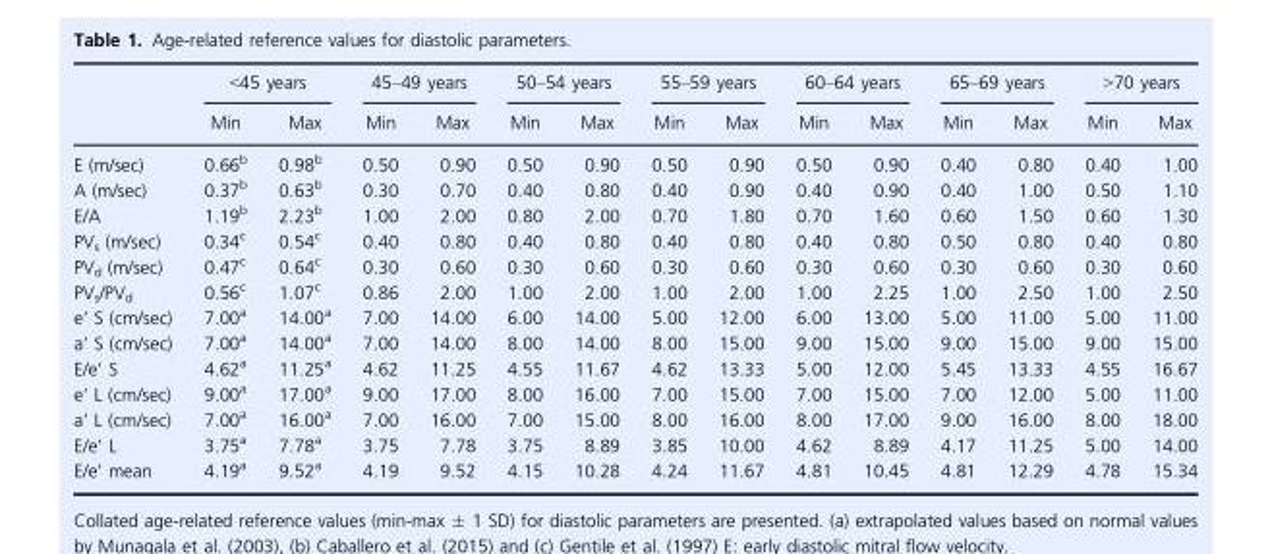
<table><thead><tr><td rowspan="2"></td><td colspan="2">&lt;45 years</td><td colspan="2">45–49 years</td><td colspan="2">50–54 years</td><td colspan="2">55–59 years</td><td colspan="2">60–64 years</td><td colspan="2">65–69 years</td><td colspan="2">&gt;70 years</td></tr><tr><td>Min</td><td>Max</td><td>Min</td><td>Max</td><td>Min</td><td>Max</td><td>Min</td><td>Max</td><td>Min</td><td>Max</td><td>Min</td><td>Max</td><td>Min</td><td>Max</td></tr></thead><tbody><tr><td>E (m/sec)</td><td>0.66<sup>b</sup></td><td>0.98<sup>b</sup></td><td>0.50</td><td>0.90</td><td>0.50</td><td>0.90</td><td>0.50</td><td>0.90</td><td>0.50</td><td>0.90</td><td>0.40</td><td>0.80</td><td>0.40</td><td>1.00</td></tr><tr><td>A (m/sec)</td><td>0.37<sup>b</sup></td><td>0.63<sup>b</sup></td><td>0.30</td><td>0.70</td><td>0.40</td><td>0.80</td><td>0.40</td><td>0.90</td><td>0.40</td><td>0.90</td><td>0.40</td><td>1.00</td><td>0.50</td><td>1.10</td></tr><tr><td>E/A</td><td>1.19<sup>b</sup></td><td>2.23<sup>b</sup></td><td>1.00</td><td>2.00</td><td>0.80</td><td>2.00</td><td>0.70</td><td>1.80</td><td>0.70</td><td>1.60</td><td>0.60</td><td>1.50</td><td>0.60</td><td>1.30</td></tr><tr><td>PV<sub>s</sub> (m/sec)</td><td>0.34<sup>c</sup></td><td>0.54<sup>c</sup></td><td>0.40</td><td>0.80</td><td>0.40</td><td>0.80</td><td>0.40</td><td>0.80</td><td>0.40</td><td>0.80</td><td>0.50</td><td>0.80</td><td>0.40</td><td>0.80</td></tr><tr><td>PV<sub>d</sub> (m/sec)</td><td>0.47<sup>c</sup></td><td>0.64<sup>c</sup></td><td>0.30</td><td>0.60</td><td>0.30</td><td>0.60</td><td>0.30</td><td>0.60</td><td>0.30</td><td>0.60</td><td>0.30</td><td>0.60</td><td>0.30</td><td>0.60</td></tr><tr><td>PV<sub>s</sub>/PV<sub>d</sub></td><td>0.56<sup>c</sup></td><td>1.07<sup>c</sup></td><td>0.86</td><td>2.00</td><td>1.00</td><td>2.00</td><td>1.00</td><td>2.00</td><td>1.00</td><td>2.25</td><td>1.00</td><td>2.50</td><td>1.00</td><td>2.50</td></tr><tr><td>e’ S (cm/sec)</td><td>7.00<sup>a</sup></td><td>14.00<sup>a</sup></td><td>7.00</td><td>14.00</td><td>6.00</td><td>14.00</td><td>5.00</td><td>12.00</td><td>6.00</td><td>13.00</td><td>5.00</td><td>11.00</td><td>5.00</td><td>11.00</td></tr><tr><td>a’ S (cm/sec)</td><td>7.00<sup>a</sup></td><td>14.00<sup>a</sup></td><td>7.00</td><td>14.00</td><td>8.00</td><td>14.00</td><td>8.00</td><td>15.00</td><td>9.00</td><td>15.00</td><td>9.00</td><td>15.00</td><td>9.00</td><td>15.00</td></tr><tr><td>E/e’ S</td><td>4.62<sup>a</sup></td><td>11.25<sup>a</sup></td><td>4.62</td><td>11.25</td><td>4.55</td><td>11.67</td><td>4.62</td><td>13.33</td><td>5.00</td><td>12.00</td><td>5.45</td><td>13.33</td><td>4.55</td><td>16.67</td></tr><tr><td>e’ L (cm/sec)</td><td>9.00<sup>a</sup></td><td>17.00<sup>a</sup></td><td>9.00</td><td>17.00</td><td>8.00</td><td>16.00</td><td>7.00</td><td>15.00</td><td>7.00</td><td>15.00</td><td>7.00</td><td>12.00</td><td>5.00</td><td>11.00</td></tr><tr><td>a’ L (cm/sec)</td><td>7.00<sup>a</sup></td><td>16.00<sup>a</sup></td><td>7.00</td><td>16.00</td><td>7.00</td><td>15.00</td><td>8.00</td><td>16.00</td><td>8.00</td><td>17.00</td><td>9.00</td><td>16.00</td><td>8.00</td><td>18.00</td></tr><tr><td>E/e’ L</td><td>3.75<sup>a</sup></td><td>7.78<sup>a</sup></td><td>3.75</td><td>7.78</td><td>3.75</td><td>8.89</td><td>3.85</td><td>10.00</td><td>4.62</td><td>8.89</td><td>4.17</td><td>11.25</td><td>5.00</td><td>14.00</td></tr><tr><td>E/e’ mean</td><td>4.19<sup>a</sup></td><td>9.52<sup>a</sup></td><td>4.19</td><td>9.52</td><td>4.15</td><td>10.28</td><td>4.24</td><td>11.67</td><td>4.81</td><td>10.45</td><td>4.81</td><td>12.29</td><td>4.78</td><td>15.34</td></tr></tbody></table>